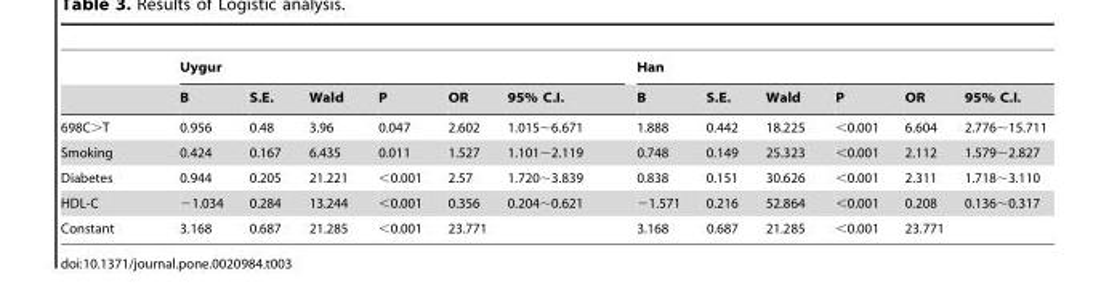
<table><thead><tr><td rowspan="2"></td><td colspan="6">Uygur</td><td colspan="6">Han</td></tr><tr><td>B</td><td>S.E.</td><td>Wald</td><td>P</td><td>OR</td><td>95% C.I.</td><td>B</td><td>S.E.</td><td>Wald</td><td>P</td><td>OR</td><td>95% C.I.</td></tr></thead><tbody><tr><td>698C&gt;T</td><td>0.956</td><td>0.48</td><td>3.96</td><td>0.047</td><td>2.602</td><td>1.015∼6.671</td><td>1.888</td><td>0.442</td><td>18.225</td><td>&lt;0.001</td><td>6.604</td><td>2.776∼15.711</td></tr><tr><td>Smoking</td><td>0.424</td><td>0.167</td><td>6.435</td><td>0.011</td><td>1.527</td><td>1.101∼2.119</td><td>0.748</td><td>0.149</td><td>25.323</td><td>&lt;0.001</td><td>2.112</td><td>1.579∼2.827</td></tr><tr><td>Diabetes</td><td>0.944</td><td>0.205</td><td>21.221</td><td>&lt;0.001</td><td>2.57</td><td>1.720∼3.839</td><td>0.838</td><td>0.151</td><td>30.626</td><td>&lt;0.001</td><td>2.311</td><td>1.718∼3.110</td></tr><tr><td>HDL-C</td><td>−1.034</td><td>0.284</td><td>13.244</td><td>&lt;0.001</td><td>0.356</td><td>0.204∼0.621</td><td>−1.571</td><td>0.216</td><td>52.864</td><td>&lt;0.001</td><td>0.208</td><td>0.136∼0.317</td></tr><tr><td>Constant</td><td>3.168</td><td>0.687</td><td>21.285</td><td>&lt;0.001</td><td>23.771</td><td></td><td>3.168</td><td>0.687</td><td>21.285</td><td>&lt;0.001</td><td>23.771</td><td></td></tr></tbody></table>